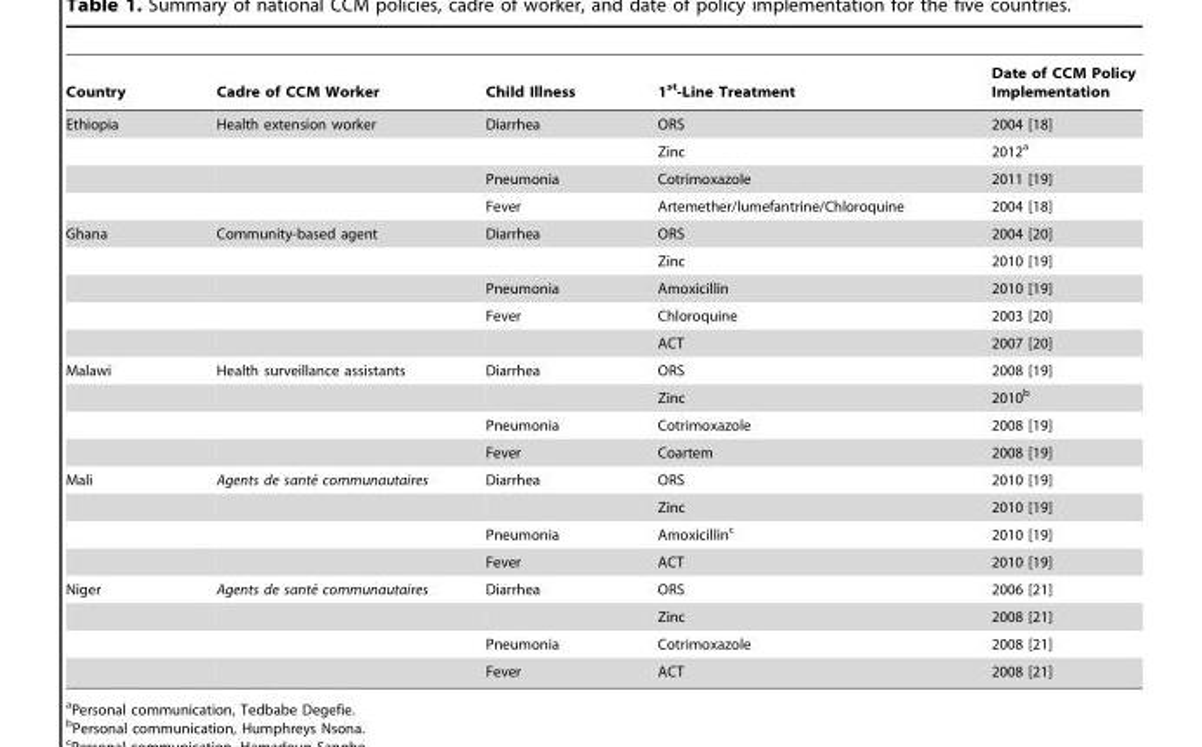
<table><thead><tr><td>Country</td><td>Cadre of CCM Worker</td><td>Child Illness</td><td>1<sup>st</sup>-Line Treatment</td><td>Date of CCM Policy Implementation</td></tr></thead><tbody><tr><td rowspan="4">Ethiopia</td><td>Health extension worker</td><td>Diarrhea</td><td>ORS</td><td>2004 [18]</td></tr><tr><td></td><td></td><td>Zinc</td><td>2012<sup>a</sup></td></tr><tr><td></td><td>Pneumonia</td><td>Cotrimoxazole</td><td>2011 [19]</td></tr><tr><td></td><td>Fever</td><td>Artemether/lumefantrine/Chloroquine</td><td>2004 [18]</td></tr><tr><td rowspan="5">Ghana</td><td>Community-based agent</td><td>Diarrhea</td><td>ORS</td><td>2004 [20]</td></tr><tr><td></td><td></td><td>Zinc</td><td>2010 [19]</td></tr><tr><td></td><td>Pneumonia</td><td>Amoxicillin</td><td>2010 [19]</td></tr><tr><td></td><td>Fever</td><td>Chloroquine</td><td>2003 [20]</td></tr><tr><td></td><td></td><td>ACT</td><td>2007 [20]</td></tr><tr><td rowspan="4">Malawi</td><td>Health surveillance assistants</td><td>Diarrhea</td><td>ORS</td><td>2008 [19]</td></tr><tr><td></td><td></td><td>Zinc</td><td>2010<sup>b</sup></td></tr><tr><td></td><td>Pneumonia</td><td>Cotrimoxazole</td><td>2008 [19]</td></tr><tr><td></td><td>Fever</td><td>Coartem</td><td>2008 [19]</td></tr><tr><td rowspan="4">Mali</td><td>Agents de sante´ communautaires</td><td>Diarrhea</td><td>ORS</td><td>2010 [19]</td></tr><tr><td></td><td></td><td>Zinc</td><td>2010 [19]</td></tr><tr><td></td><td>Pneumonia</td><td>Amoxicillin<sup>c</sup></td><td>2010 [19]</td></tr><tr><td></td><td>Fever</td><td>ACT</td><td>2010 [19]</td></tr><tr><td rowspan="4">Niger</td><td>Agents de sante´ communautaires</td><td>Diarrhea</td><td>ORS</td><td>2006 [21]</td></tr><tr><td></td><td></td><td>Zinc</td><td>2008 [21]</td></tr><tr><td></td><td>Pneumonia</td><td>Cotrimoxazole</td><td>2008 [21]</td></tr><tr><td></td><td>Fever</td><td>ACT</td><td>2008 [21]</td></tr></tbody></table>